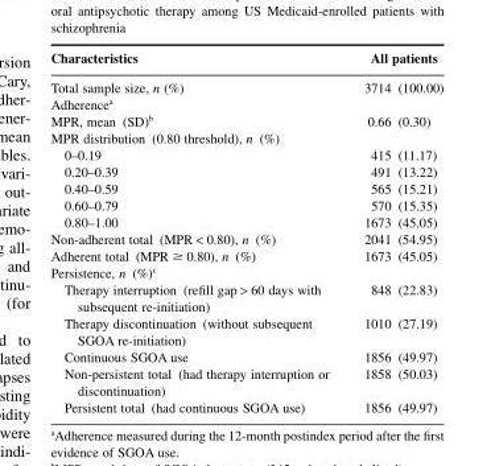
<table><thead><tr><td>Characteristics</td><td>All patients</td></tr></thead><tbody><tr><td>Total sample size, n (%)</td><td>3714 (100.00)</td></tr><tr><td colspan="2">Adherence<sup>a</sup></td></tr><tr><td>MPR, mean (SD)<sup>b</sup></td><td>0.66 (0.30)</td></tr><tr><td colspan="2">MPR distribution (0.80 threshold), n (%)</td></tr><tr><td>0–0.19</td><td>415 (11.17)</td></tr><tr><td>0.20–0.39</td><td>491 (13.22)</td></tr><tr><td>0.40–0.59</td><td>565 (15.21)</td></tr><tr><td>0.60–0.79</td><td>570 (15.35)</td></tr><tr><td>0.80–1.00</td><td>1673 (45.05)</td></tr><tr><td>Non-adherent total (MPR &lt; 0.80), n (%)</td><td>2041 (54.95)</td></tr><tr><td>Adherent total (MPR ≥ 0.80), n (%)</td><td>1673 (45.05)</td></tr><tr><td colspan="2">Persistence, n (%)<sup>c</sup></td></tr><tr><td>Therapy interruption (refill gap &gt; 60 days with subsequent re-initiation)</td><td>848 (22.83)</td></tr><tr><td>Therapy discontinuation (without subsequent SGOA re-initiation)</td><td>1010 (27.19)</td></tr><tr><td>Continuous SGOA use</td><td>1856 (49.97)</td></tr><tr><td>Non-persistent total (had therapy interruption or discontinuation)</td><td>1858 (50.03)</td></tr><tr><td>Persistent total (had continuous SGOA use)</td><td>1856 (49.97)</td></tr></tbody></table>